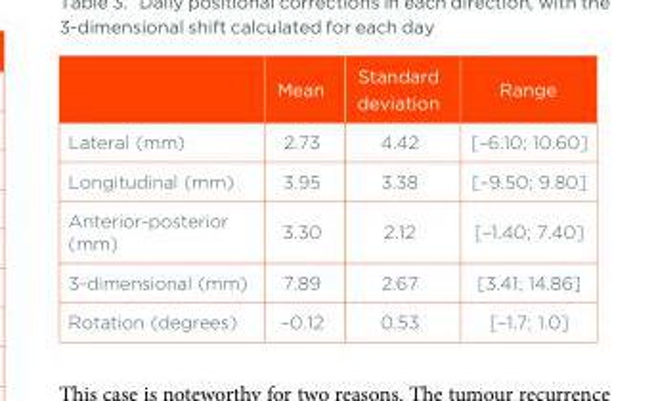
<table><thead><tr><td></td><td>Mean</td><td>Standard deviation</td><td>Range</td></tr></thead><tbody><tr><td>Lateral (mm)</td><td>2.73</td><td>4.42</td><td>[–6.10; 10.60]</td></tr><tr><td>Longitudinal (mm)</td><td>3.95</td><td>3.38</td><td>[–9.50; 9.80]</td></tr><tr><td>Anterior-posterior (mm)</td><td>3.30</td><td>2.12</td><td>[–1.40; 7.40]</td></tr><tr><td>3-dimensional (mm)</td><td>7.89</td><td>2.67</td><td>[3.41; 14.86]</td></tr><tr><td>Rotation (degrees)</td><td>–0.12</td><td>0.53</td><td>[–1.7; 1.0]</td></tr></tbody></table>